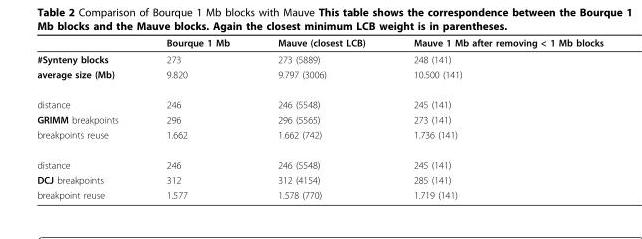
<table><thead><tr><td></td><td>Bourque 1 Mb</td><td>Mauve (closest LCB)</td><td>Mauve 1 Mb after removing &lt; 1 Mb blocks</td></tr></thead><tbody><tr><td>#Synteny blocks</td><td>273</td><td>273 (5889)</td><td>248 (141)</td></tr><tr><td>average size (Mb)</td><td>9.820</td><td>9.797 (3006)</td><td>10.500 (141)</td></tr><tr><td>distance</td><td>246</td><td>246 (5548)</td><td>245 (141)</td></tr><tr><td>GRIMM breakpoints</td><td>296</td><td>296 (5565)</td><td>273 (141)</td></tr><tr><td>breakpoints reuse</td><td>1.662</td><td>1.662 (742)</td><td>1.736 (141)</td></tr><tr><td>distance</td><td>246</td><td>246 (5548)</td><td>245 (141)</td></tr><tr><td>DCJ breakpoints</td><td>312</td><td>312 (4154)</td><td>285 (141)</td></tr><tr><td>breakpoint reuse</td><td>1.577</td><td>1.578 (770)</td><td>1.719 (141)</td></tr></tbody></table>